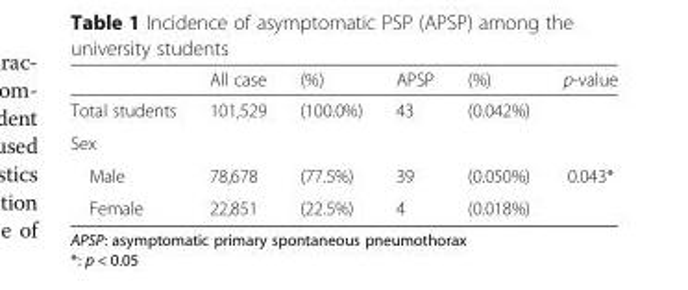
<table><thead><tr><td></td><td>All case</td><td>(%)</td><td>APSP</td><td>(%)</td><td>p-value</td></tr></thead><tbody><tr><td>Total students</td><td>101,529</td><td>(100.0%)</td><td>43</td><td>(0.042%)</td><td></td></tr><tr><td colspan="6">Sex</td></tr><tr><td>Male</td><td>78,678</td><td>(77.5%)</td><td>39</td><td>(0.050%)</td><td>0.043*</td></tr><tr><td>Female</td><td>22,851</td><td>(22.5%)</td><td>4</td><td>(0.018%)</td><td></td></tr></tbody></table>